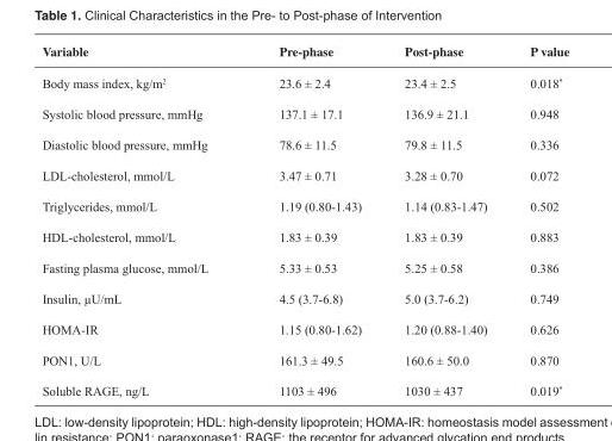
<table><thead><tr><td>Variable</td><td>Pre-phase</td><td>Post-phase</td><td>P value</td></tr></thead><tbody><tr><td>Body mass index, kg/m<sup>2</sup></td><td>23.6 ± 2.4</td><td>23.4 ± 2.5</td><td>0.018*</td></tr><tr><td>Systolic blood pressure, mmHg</td><td>137.1 ± 17.1</td><td>136.9 ± 21.1</td><td>0.948</td></tr><tr><td>Diastolic blood pressure, mmHg</td><td>78.6 ± 11.5</td><td>79.8 ± 11.5</td><td>0.336</td></tr><tr><td>LDL-cholesterol, mmol/L</td><td>3.47 ± 0.71</td><td>3.28 ± 0.70</td><td>0.072</td></tr><tr><td>Triglycerides, mmol/L</td><td>1.19 (0.80-1.43)</td><td>1.14 (0.83-1.47)</td><td>0.502</td></tr><tr><td>HDL-cholesterol, mmol/L</td><td>1.83 ± 0.39</td><td>1.83 ± 0.39</td><td>0.883</td></tr><tr><td>Fasting plasma glucose, mmol/L</td><td>5.33 ± 0.53</td><td>5.25 ± 0.58</td><td>0.386</td></tr><tr><td>Insulin, μU/mL</td><td>4.5 (3.7-6.8)</td><td>5.0 (3.7-6.2)</td><td>0.749</td></tr><tr><td>HOMA-IR</td><td>1.15 (0.80-1.62)</td><td>1.20 (0.88-1.40)</td><td>0.626</td></tr><tr><td>PON1, U/L</td><td>161.3 ± 49.5</td><td>160.6 ± 50.0</td><td>0.870</td></tr><tr><td>Soluble RAGE, ng/L</td><td>1103 ± 496</td><td>1030 ± 437</td><td>0.019*</td></tr></tbody></table>